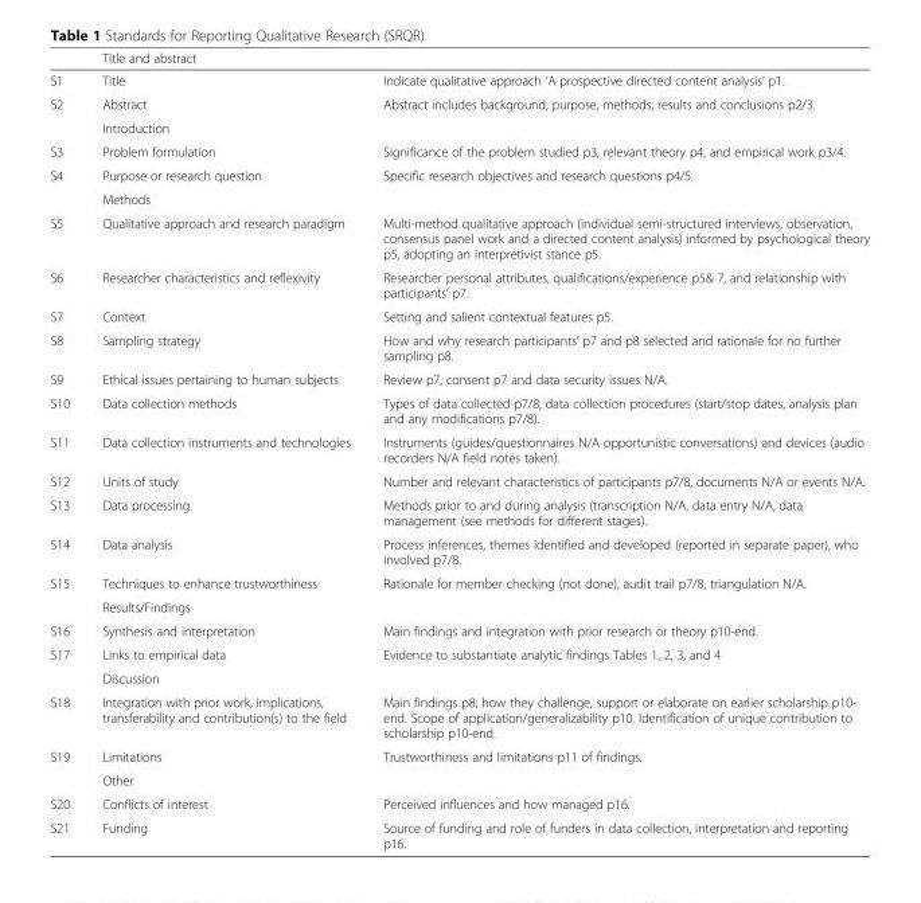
<table><thead><tr><td></td><td>Title and abstract</td><td></td></tr></thead><tbody><tr><td>S1</td><td>Title</td><td>Indicate qualitative approach ‘A prospective directed content analysis’ p1.</td></tr><tr><td rowspan="2">S2</td><td>Abstract</td><td>Abstract includes background, purpose, methods, results and conclusions p2/3.</td></tr><tr><td>Introduction</td><td></td></tr><tr><td>S3</td><td>Problem formulation</td><td>Significance of the problem studied p3, relevant theory p4, and empirical work p3/4.</td></tr><tr><td rowspan="2">S4</td><td>Purpose or research question</td><td>Specific research objectives and research questions p4/5.</td></tr><tr><td>Methods</td><td></td></tr><tr><td>S5</td><td>Qualitative approach and research paradigm</td><td>Multi-method qualitative approach (individual semi-structured interviews, observation, consensus panel work and a directed content analysis) informed by psychological theory p5, adopting an interpretivist stance p5.</td></tr><tr><td>S6</td><td>Researcher characteristics and reflexivity</td><td>Researcher personal attributes, qualifications/experience p5&amp; 7, and relationship with participants’ p7.</td></tr><tr><td>S7</td><td>Context</td><td>Setting and salient contextual features p5.</td></tr><tr><td>S8</td><td>Sampling strategy</td><td>How and why research participants’ p7 and p8 selected and rationale for no further sampling p8.</td></tr><tr><td>S9</td><td>Ethical issues pertaining to human subjects</td><td>Review p7, consent p7 and data security issues N/A.</td></tr><tr><td>S10</td><td>Data collection methods</td><td>Types of data collected p7/8, data collection procedures (start/stop dates, analysis plan and any modifications p7/8).</td></tr><tr><td>S11</td><td>Data collection instruments and technologies</td><td>Instruments (guides/questionnaires N/A opportunistic conversations) and devices (audio recorders N/A field notes taken).</td></tr><tr><td>S12</td><td>Units of study</td><td>Number and relevant characteristics of participants p7/8, documents N/A or events N/A.</td></tr><tr><td>S13</td><td>Data processing</td><td>Methods prior to and during analysis (transcription N/A, data entry N/A, data management (see methods for different stages).</td></tr><tr><td>S14</td><td>Data analysis</td><td>Process inferences, themes identified and developed (reported in separate paper), who involved p7/8.</td></tr><tr><td rowspan="2">S15</td><td>Techniques to enhance trustworthiness</td><td>Rationale for member checking (not done), audit trail p7/8, triangulation N/A.</td></tr><tr><td>Results/Findings</td><td></td></tr><tr><td>S16</td><td>Synthesis and interpretation</td><td>Main findings and integration with prior research or theory p10-end.</td></tr><tr><td rowspan="2">S17</td><td>Links to empirical data</td><td>Evidence to substantiate analytic findings Tables 1, 2, 3, and 4</td></tr><tr><td>Discussion</td><td></td></tr><tr><td>S18</td><td>Integration with prior work, implications, transferability and contribution(s) to the field</td><td>Main findings p8, how they challenge, support or elaborate on earlier scholarship p10- end. Scope of application/generalizability p10. Identification of unique contribution to scholarship p10-end.</td></tr><tr><td rowspan="2">S19</td><td>Limitations</td><td>Trustworthiness and limitations p11 of findings.</td></tr><tr><td>Other</td><td></td></tr><tr><td>S20</td><td>Conflicts of interest</td><td>Perceived influences and how managed p16.</td></tr><tr><td>S21</td><td>Funding</td><td>Source of funding and role of funders in data collection, interpretation and reporting p16.</td></tr></tbody></table>